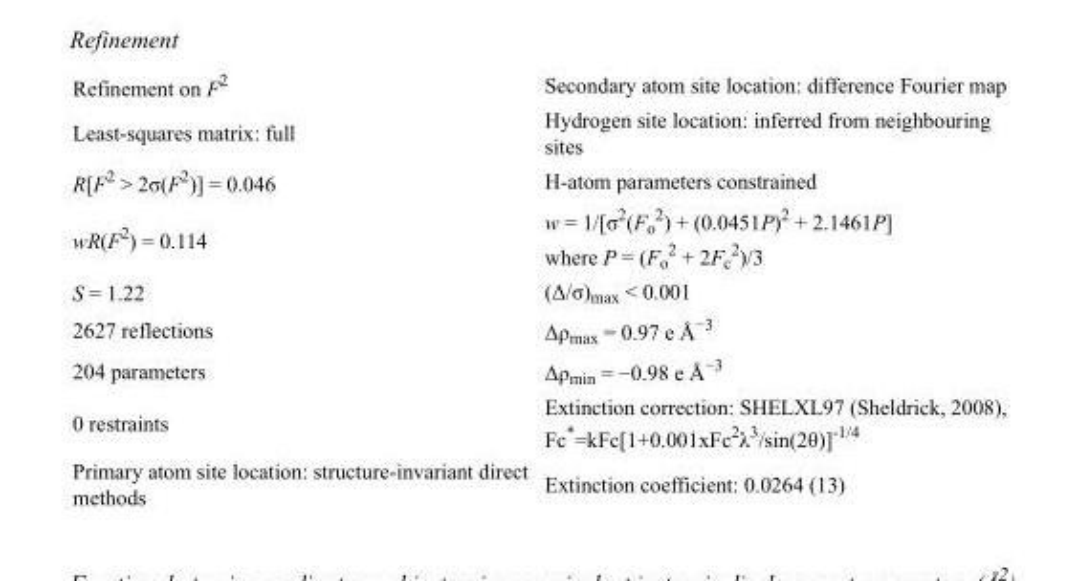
<table><tbody><tr><td>Refinement on F<sup>2</sup></td><td>Secondary atom site location: difference Fourier map</td></tr><tr><td>Least-squares matrix: full</td><td>Hydrogen site location: inferred from neighbouring sites</td></tr><tr><td>R[F<sup>2</sup> &gt; 2σ(F<sup>2</sup>)] = 0.046</td><td>H-atom parameters constrained</td></tr><tr><td>wR(F<sup>2</sup>) = 0.114</td><td>w = 1/[σ<sup>2</sup>(F<sub>o</sub> <sup>2</sup>) + (0.0451P)<sup>2</sup> + 2.1461P] where P = (F<sub>o</sub> <sup>2</sup> + 2F<sub>c</sub> <sup>2</sup>)/3</td></tr><tr><td>S = 1.22</td><td>(Δ/σ)<sub>max</sub> &lt; 0.001</td></tr><tr><td>2627 reflections</td><td>Δρ<sub>max</sub> = 0.97 e Å<sup>−3</sup></td></tr><tr><td>204 parameters</td><td>Δρ<sub>min</sub> = −0.98 e Å<sup>−3</sup></td></tr><tr><td>0 restraints</td><td>Extinction correction: SHELXL97 (Sheldrick, 2008), Fc*=kFc[1+0.001xFc<sup>2</sup>λ<sup>3</sup>/sin(2θ)]<sup>-1/4</sup></td></tr><tr><td>Primary atom site location: structure-invariant direct methods</td><td>Extinction coefficient: 0.0264 (13)</td></tr></tbody></table>